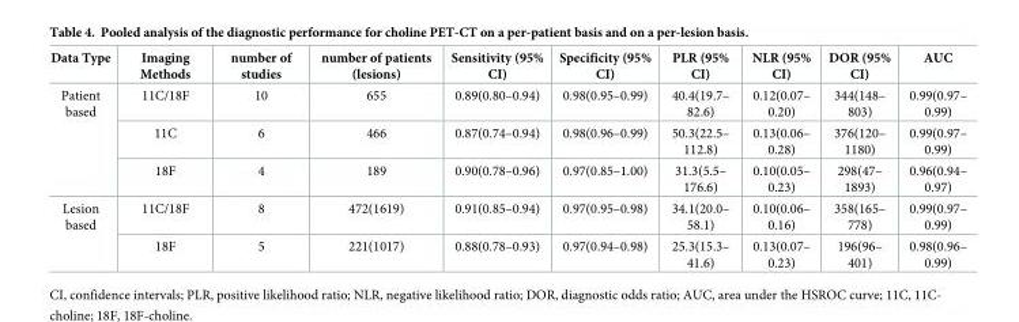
<table><thead><tr><td>Data Type</td><td>Imaging Methods</td><td>number of studies</td><td>number of patients (lesions)</td><td>Sensitivity (95% CI)</td><td>Specificity (95% CI)</td><td>PLR (95% CI)</td><td>NLR (95% CI)</td><td>DOR (95% CI)</td><td>AUC</td></tr></thead><tbody><tr><td rowspan="3">Patient based</td><td>11C/18F</td><td>10</td><td>655</td><td>0.89(0.80–0.94)</td><td>0.98(0.95–0.99)</td><td>40.4(19.7– 82.6)</td><td>0.12(0.07– 0.20)</td><td>344(148– 803)</td><td>0.99(0.97– 0.99)</td></tr><tr><td>11C</td><td>6</td><td>466</td><td>0.87(0.74–0.94)</td><td>0.98(0.96–0.99)</td><td>50.3(22.5– 112.8)</td><td>0.13(0.06– 0.28)</td><td>376(120– 1180)</td><td>0.99(0.97– 0.99)</td></tr><tr><td>18F</td><td>4</td><td>189</td><td>0.90(0.78–0.96)</td><td>0.97(0.85–1.00)</td><td>31.3(5.5– 176.6)</td><td>0.10(0.05– 0.23)</td><td>298(47– 1893)</td><td>0.96(0.94– 0.97)</td></tr><tr><td rowspan="2">Lesion based</td><td>11C/18F</td><td>8</td><td>472(1619)</td><td>0.91(0.85–0.94)</td><td>0.97(0.95–0.98)</td><td>34.1(20.0– 58.1)</td><td>0.10(0.06– 0.16)</td><td>358(165– 778)</td><td>0.99(0.97– 0.99)</td></tr><tr><td>18F</td><td>5</td><td>221(1017)</td><td>0.88(0.78–0.93)</td><td>0.97(0.94–0.98)</td><td>25.3(15.3– 41.6)</td><td>0.13(0.07– 0.23)</td><td>196(96– 401)</td><td>0.98(0.96– 0.99)</td></tr></tbody></table>